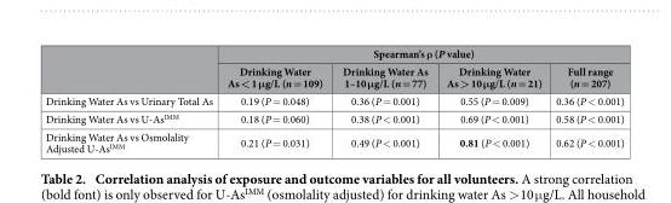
<table><thead><tr><td rowspan="2"></td><td colspan="4">Spearman’s ρ (P value)</td></tr><tr><td>Drinking Water As &lt; 1 μg/L (n = 109)</td><td>Drinking Water As 1–10 μg/L (n = 77)</td><td>Drinking Water As &gt; 10 μg/L (n = 21)</td><td>Full range (n = 207)</td></tr></thead><tbody><tr><td>Drinking Water As vs Urinary Total As</td><td>0.19 (P = 0.048)</td><td>0.36 (P = 0.001)</td><td>0.55 (P = 0.009)</td><td>0.36 (P &lt; 0.001)</td></tr><tr><td>Drinking Water As vs U-As<sup>IMM</sup></td><td>0.18 (P = 0.060)</td><td>0.38 (P &lt; 0.001)</td><td>0.69 (P &lt; 0.001)</td><td>0.58 (P &lt; 0.001)</td></tr><tr><td>Drinking Water As vs Osmolality Adjusted U-As<sup>IMM</sup></td><td>0.21 (P = 0.031)</td><td>0.49 (P &lt; 0.001)</td><td>0.81 (P &lt; 0.001)</td><td>0.62 (P &lt; 0.001)</td></tr></tbody></table>